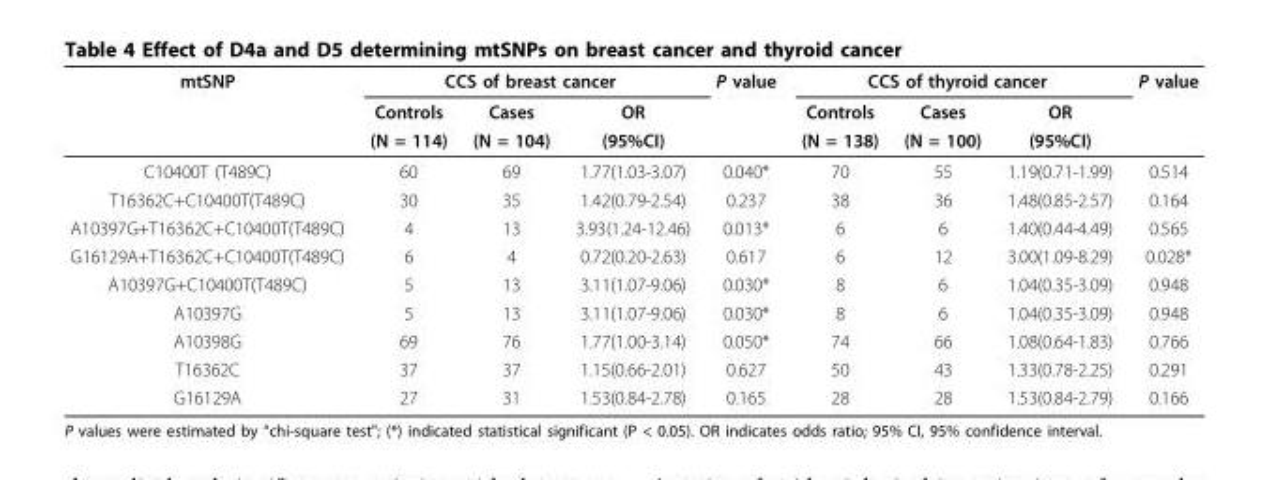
<table><thead><tr><td rowspan="3">mtSNP</td><td colspan="3">CCS of breast cancer</td><td rowspan="3">P value</td><td colspan="3">CCS of thyroid cancer</td><td rowspan="3">P value</td></tr><tr><td rowspan="2">Controls (N = 114)</td><td rowspan="2">Cases (N = 104)</td><td rowspan="2">OR (95%CI)</td><td rowspan="2">Controls (N = 138)</td><td rowspan="2">Cases (N = 100)</td><td rowspan="2">OR (95%CI)</td></tr><tr></tr></thead><tbody><tr><td>C10400T (T489C)</td><td>60</td><td>69</td><td>1.77(1.03-3.07)</td><td>0.040*</td><td>70</td><td>55</td><td>1.19(0.71-1.99)</td><td>0.514</td></tr><tr><td>T16362C+C10400T(T489C)</td><td>30</td><td>35</td><td>1.42(0.79-2.54)</td><td>0.237</td><td>38</td><td>36</td><td>1.48(0.85-2.57)</td><td>0.164</td></tr><tr><td>A10397G+T16362C+C10400T(T489C)</td><td>4</td><td>13</td><td>3.93(1.24-12.46)</td><td>0.013*</td><td>6</td><td>6</td><td>1.40(0.44-4.49)</td><td>0.565</td></tr><tr><td>G16129A+T16362C+C10400T(T489C)</td><td>6</td><td>4</td><td>0.72(0.20-2.63)</td><td>0.617</td><td>6</td><td>12</td><td>3.00(1.09-8.29)</td><td>0.028*</td></tr><tr><td>A10397G+C10400T(T489C)</td><td>5</td><td>13</td><td>3.11(1.07-9.06)</td><td>0.030*</td><td>8</td><td>6</td><td>1.04(0.35-3.09)</td><td>0.948</td></tr><tr><td>A10397G</td><td>5</td><td>13</td><td>3.11(1.07-9.06)</td><td>0.030*</td><td>8</td><td>6</td><td>1.04(0.35-3.09)</td><td>0.948</td></tr><tr><td>A10398G</td><td>69</td><td>76</td><td>1.77(1.00-3.14)</td><td>0.050*</td><td>74</td><td>66</td><td>1.08(0.64-1.83)</td><td>0.766</td></tr><tr><td>T16362C</td><td>37</td><td>37</td><td>1.15(0.66-2.01)</td><td>0.627</td><td>50</td><td>43</td><td>1.33(0.78-2.25)</td><td>0.291</td></tr><tr><td>G16129A</td><td>27</td><td>31</td><td>1.53(0.84-2.78)</td><td>0.165</td><td>28</td><td>28</td><td>1.53(0.84-2.79)</td><td>0.166</td></tr></tbody></table>